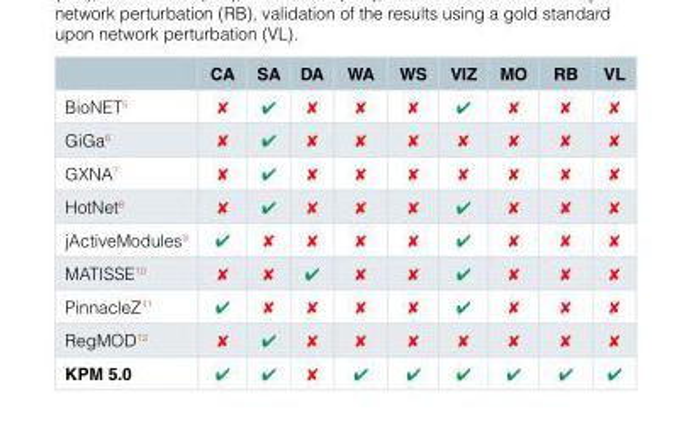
<table><thead><tr><td></td><td>CA</td><td>SA</td><td>DA</td><td>WA</td><td>WS</td><td>VIZ</td><td>MO</td><td>RB</td><td>VL</td></tr></thead><tbody><tr><td>BioNET<sup>5</sup></td><td>✘</td><td>✔</td><td>✘</td><td>✘</td><td>✘</td><td>✔</td><td>✘</td><td>✘</td><td>✘</td></tr><tr><td>GiGa<sup>6</sup></td><td>✘</td><td>✔</td><td>✘</td><td>✘</td><td>✘</td><td>✘</td><td>✘</td><td>✘</td><td>✘</td></tr><tr><td>GXNA<sup>7</sup></td><td>✘</td><td>✔</td><td>✘</td><td>✘</td><td>✘</td><td>✘</td><td>✘</td><td>✘</td><td>✘</td></tr><tr><td>HotNet<sup>8</sup></td><td>✘</td><td>✔</td><td>✘</td><td>✘</td><td>✘</td><td>✔</td><td>✘</td><td>✘</td><td>✘</td></tr><tr><td>jActiveModules<sup>9</sup></td><td>✔</td><td>✘</td><td>✘</td><td>✘</td><td>✘</td><td>✔</td><td>✘</td><td>✘</td><td>✘</td></tr><tr><td>MATISSE<sup>10</sup></td><td>✘</td><td>✘</td><td>✔</td><td>✘</td><td>✘</td><td>✔</td><td>✘</td><td>✘</td><td>✘</td></tr><tr><td>PinnacleZ<sup>11</sup></td><td>✔</td><td>✘</td><td>✘</td><td>✘</td><td>✘</td><td>✔</td><td>✘</td><td>✘</td><td>✘</td></tr><tr><td>RegMOD<sup>12</sup></td><td>✘</td><td>✔</td><td>✘</td><td>✘</td><td>✘</td><td>✘</td><td>✘</td><td>✘</td><td>✘</td></tr><tr><td>KPM 5.0</td><td>✔</td><td>✔</td><td>✘</td><td>✔</td><td>✔</td><td>✔</td><td>✔</td><td>✔</td><td>✔</td></tr></tbody></table>